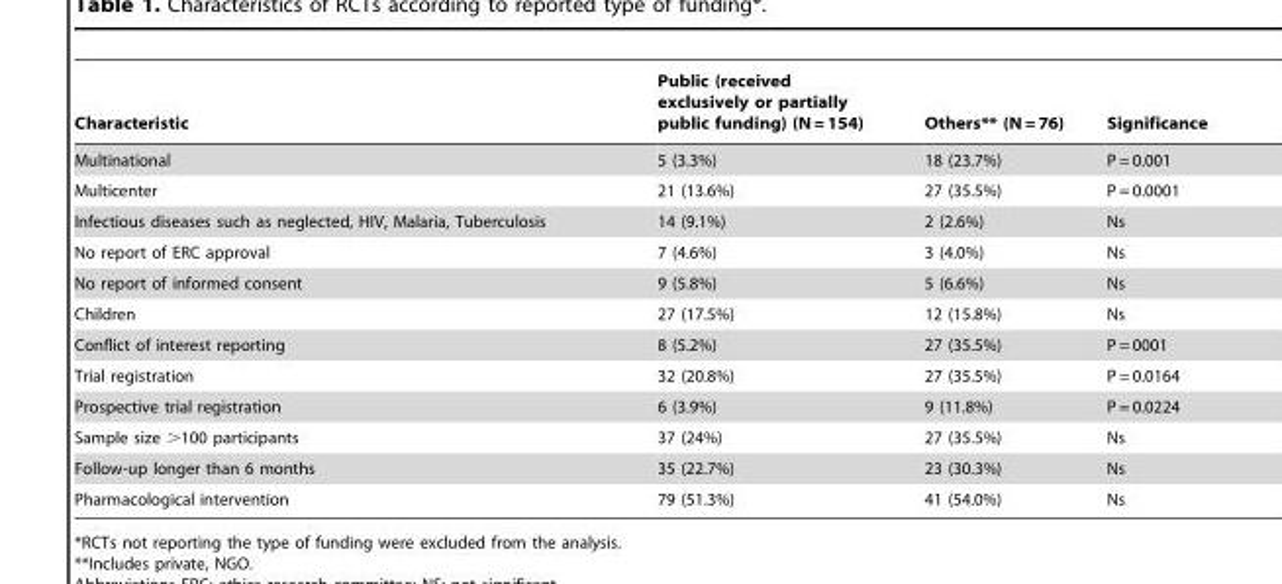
<table><thead><tr><td>Characteristic</td><td>Public (received exclusively or partially public funding) (N = 154)</td><td>Others** (N = 76)</td><td>Significance</td></tr></thead><tbody><tr><td>Multinational</td><td>5 (3.3%)</td><td>18 (23.7%)</td><td>P = 0.001</td></tr><tr><td>Multicenter</td><td>21 (13.6%)</td><td>27 (35.5%)</td><td>P = 0.0001</td></tr><tr><td>Infectious diseases such as neglected, HIV, Malaria, Tuberculosis</td><td>14 (9.1%)</td><td>2 (2.6%)</td><td>Ns</td></tr><tr><td>No report of ERC approval</td><td>7 (4.6%)</td><td>3 (4.0%)</td><td>Ns</td></tr><tr><td>No report of informed consent</td><td>9 (5.8%)</td><td>5 (6.6%)</td><td>Ns</td></tr><tr><td>Children</td><td>27 (17.5%)</td><td>12 (15.8%)</td><td>Ns</td></tr><tr><td>Conflict of interest reporting</td><td>8 (5.2%)</td><td>27 (35.5%)</td><td>P = 0001</td></tr><tr><td>Trial registration</td><td>32 (20.8%)</td><td>27 (35.5%)</td><td>P = 0.0164</td></tr><tr><td>Prospective trial registration</td><td>6 (3.9%)</td><td>9 (11.8%)</td><td>P = 0.0224</td></tr><tr><td>Sample size &gt;100 participants</td><td>37 (24%)</td><td>27 (35.5%)</td><td>Ns</td></tr><tr><td>Follow-up longer than 6 months</td><td>35 (22.7%)</td><td>23 (30.3%)</td><td>Ns</td></tr><tr><td>Pharmacological intervention</td><td>79 (51.3%)</td><td>41 (54.0%)</td><td>Ns</td></tr></tbody></table>